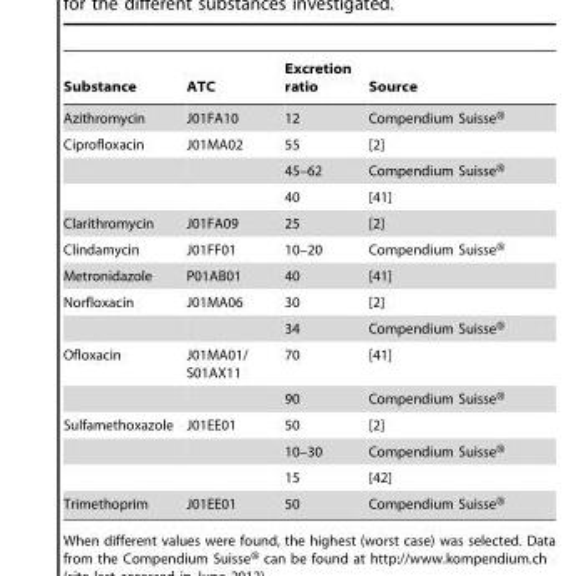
<table><thead><tr><td>Substance</td><td>ATC</td><td>Excretion ratio</td><td>Source</td></tr></thead><tbody><tr><td>Azithromycin</td><td>J01FA10</td><td>12</td><td>Compendium Suisse®</td></tr><tr><td rowspan="3">Ciprofloxacin</td><td>J01MA02</td><td>55</td><td>[2]</td></tr><tr><td></td><td>45–62</td><td>Compendium Suisse®</td></tr><tr><td></td><td>40</td><td>[41]</td></tr><tr><td>Clarithromycin</td><td>J01FA09</td><td>25</td><td>[2]</td></tr><tr><td>Clindamycin</td><td>J01FF01</td><td>10–20</td><td>Compendium Suisse®</td></tr><tr><td>Metronidazole</td><td>P01AB01</td><td>40</td><td>[41]</td></tr><tr><td rowspan="2">Norfloxacin</td><td>J01MA06</td><td>30</td><td>[2]</td></tr><tr><td></td><td>34</td><td>Compendium Suisse®</td></tr><tr><td rowspan="2">Ofloxacin</td><td>J01MA01/ S01AX11</td><td>70</td><td>[41]</td></tr><tr><td></td><td>90</td><td>Compendium Suisse®</td></tr><tr><td rowspan="3">Sulfamethoxazole</td><td>J01EE01</td><td>50</td><td>[2]</td></tr><tr><td></td><td>10–30</td><td>Compendium Suisse®</td></tr><tr><td></td><td>15</td><td>[42]</td></tr><tr><td>Trimethoprim</td><td>J01EE01</td><td>50</td><td>Compendium Suisse®</td></tr></tbody></table>